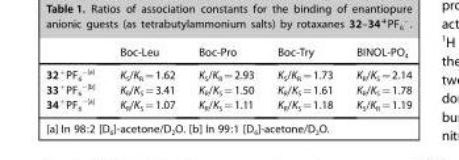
<table><thead><tr><td></td><td>Boc-Leu</td><td>Boc-Pro</td><td>Boc-Try</td><td>BINOL-PO<sub>4</sub></td></tr></thead><tbody><tr><td>32<sup>+</sup>PF<sub>6</sub> <sup>−[a]</sup></td><td>K<sub>S</sub>/K<sub>R</sub>=1.62</td><td>K<sub>S</sub>/K<sub>R</sub>=2.93</td><td>K<sub>S</sub>/K<sub>R</sub>=1.73</td><td>K<sub>R</sub>/K<sub>S</sub>=2.14</td></tr><tr><td>33<sup>+</sup>PF<sub>6</sub> <sup>−[b]</sup></td><td>K<sub>R</sub>/K<sub>S</sub>=3.41</td><td>K<sub>R</sub>/K<sub>S</sub>=1.50</td><td>K<sub>R</sub>/K<sub>S</sub>=1.61</td><td>K<sub>R</sub>/K<sub>S</sub>=1.78</td></tr><tr><td>34<sup>+</sup>PF<sub>6</sub> <sup>−[a]</sup></td><td>K<sub>R</sub>/K<sub>S</sub>=1.07</td><td>K<sub>R</sub>/K<sub>S</sub>=1.11</td><td>K<sub>R</sub>/K<sub>S</sub>=1.18</td><td>K<sub>S</sub>/K<sub>R</sub>=1.19</td></tr></tbody></table>